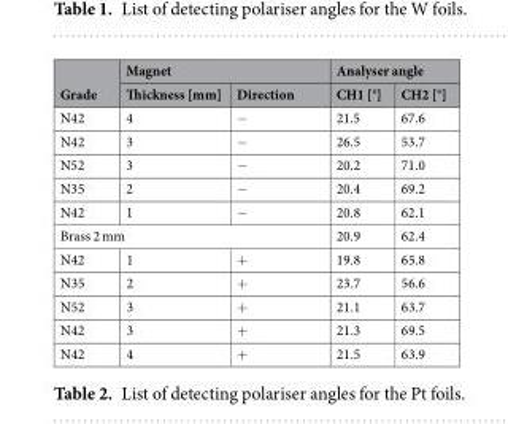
<table><thead><tr><td rowspan="2">Grade</td><td colspan="2">Magnet</td><td colspan="2">Analyser angle</td></tr><tr><td>Thickness [mm]</td><td>Direction</td><td>CH1 [°]</td><td>CH2 [°]</td></tr></thead><tbody><tr><td>N42</td><td>4</td><td>−</td><td>21.5</td><td>67.6</td></tr><tr><td>N42</td><td>3</td><td>−</td><td>26.5</td><td>53.7</td></tr><tr><td>N52</td><td>3</td><td>−</td><td>20.2</td><td>71.0</td></tr><tr><td>N35</td><td>2</td><td>−</td><td>20.4</td><td>69.2</td></tr><tr><td>N42</td><td>1</td><td>−</td><td>20.8</td><td>62.1</td></tr><tr><td colspan="3">Brass 2 mm</td><td>20.9</td><td>62.4</td></tr><tr><td>N42</td><td>1</td><td>+</td><td>19.8</td><td>65.8</td></tr><tr><td>N35</td><td>2</td><td>+</td><td>23.7</td><td>56.6</td></tr><tr><td>N52</td><td>3</td><td>+</td><td>21.1</td><td>63.7</td></tr><tr><td>N42</td><td>3</td><td>+</td><td>21.3</td><td>69.5</td></tr><tr><td>N42</td><td>4</td><td>+</td><td>21.5</td><td>63.9</td></tr></tbody></table>